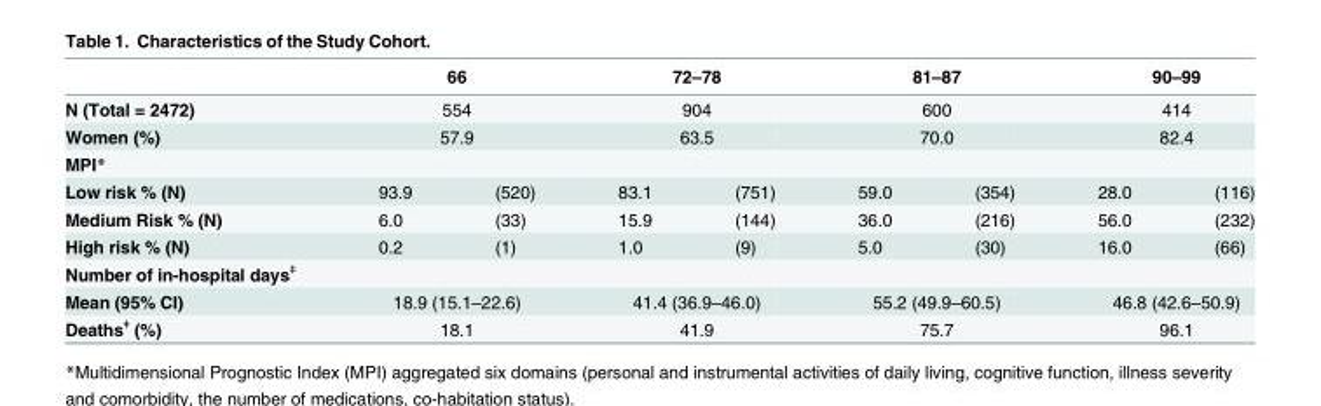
<table><thead><tr><td></td><td colspan="2">66</td><td colspan="2">72–78</td><td colspan="2">81–87</td><td colspan="2">90–99</td></tr></thead><tbody><tr><td>N (Total = 2472)</td><td colspan="2">554</td><td colspan="2">904</td><td colspan="2">600</td><td colspan="2">414</td></tr><tr><td>Women (%)</td><td colspan="2">57.9</td><td colspan="2">63.5</td><td colspan="2">70.0</td><td colspan="2">82.4</td></tr><tr><td colspan="9">MPI*</td></tr><tr><td>Low risk % (N)</td><td>93.9</td><td>(520)</td><td>83.1</td><td>(751)</td><td>59.0</td><td>(354)</td><td>28.0</td><td>(116)</td></tr><tr><td>Medium Risk % (N)</td><td>6.0</td><td>(33)</td><td>15.9</td><td>(144)</td><td>36.0</td><td>(216)</td><td>56.0</td><td>(232)</td></tr><tr><td>High risk % (N)</td><td>0.2</td><td>(1)</td><td>1.0</td><td>(9)</td><td>5.0</td><td>(30)</td><td>16.0</td><td>(66)</td></tr><tr><td colspan="9">Number of in-hospital days<sup>ǂ</sup></td></tr><tr><td>Mean (95% CI)</td><td colspan="2">18.9 (15.1–22.6)</td><td colspan="2">41.4 (36.9–46.0)</td><td colspan="2">55.2 (49.9–60.5)</td><td colspan="2">46.8 (42.6–50.9)</td></tr><tr><td>Deaths<sup>ǂ</sup> (%)</td><td colspan="2">18.1</td><td colspan="2">41.9</td><td colspan="2">75.7</td><td colspan="2">96.1</td></tr></tbody></table>